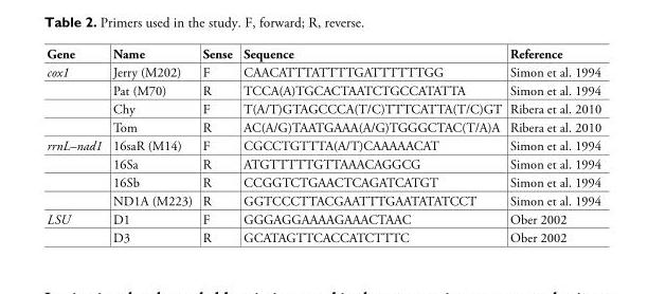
<table><tbody><tr><td>Gene</td><td>Name</td><td>Sense</td><td>Sequence</td><td>Reference</td></tr><tr><td rowspan="4">cox1</td><td>Jerry (M202)</td><td>F</td><td>CAACATTTATTTTGATTTTTTGG</td><td>Simon et al. 1994</td></tr><tr><td>Pat (M70)</td><td>R</td><td>TCCA(A)TGCACTAATCTGCCATATTA</td><td>Simon et al. 1994</td></tr><tr><td>Chy</td><td>F</td><td>T(A/T)GTAGCCCA(T/C)TTTCATTA(T/C)GT</td><td>Ribera et al. 2010</td></tr><tr><td>Tom</td><td>R</td><td>AC(A/G)TAATGAAA(A/G)TGGGCTAC(T/A)A</td><td>Ribera et al. 2010</td></tr><tr><td rowspan="4">rrnL–nad1</td><td>16saR (M14)</td><td>F</td><td>CGCCTGTTTA(A/T)CAAAAACAT</td><td>Simon et al. 1994</td></tr><tr><td>16Sa</td><td>R</td><td>ATGTTTTTGTTAAACAGGCG</td><td>Simon et al. 1994</td></tr><tr><td>16Sb</td><td>R</td><td>CCGGTCTGAACTCAGATCATGT</td><td>Simon et al. 1994</td></tr><tr><td>ND1A (M223)</td><td>R</td><td>GGTCCCTTACGAATTTGAATATATCCT</td><td>Simon et al. 1994</td></tr><tr><td rowspan="2">LSU</td><td>D1</td><td>F</td><td>GGGAGGAAAAGAAACTAAC</td><td>Ober 2002</td></tr><tr><td>D3</td><td>R</td><td>GCATAGTTCACCATCTTTC</td><td>Ober 2002</td></tr></tbody></table>